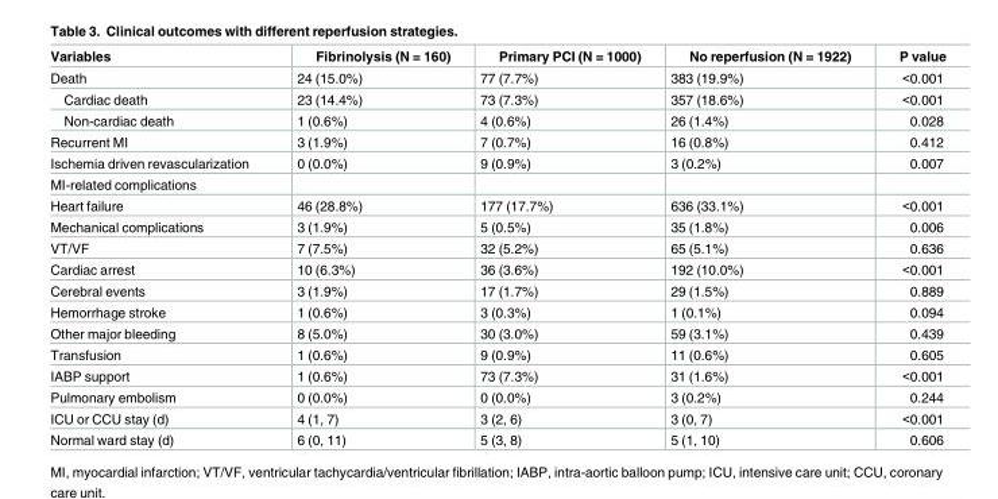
<table><thead><tr><td>Variables</td><td>Fibrinolysis (N = 160)</td><td>Primary PCI (N = 1000)</td><td>No reperfusion (N = 1922)</td><td>P value</td></tr></thead><tbody><tr><td>Death</td><td>24 (15.0%)</td><td>77 (7.7%)</td><td>383 (19.9%)</td><td>&lt;0.001</td></tr><tr><td>Cardiac death</td><td>23 (14.4%)</td><td>73 (7.3%)</td><td>357 (18.6%)</td><td>&lt;0.001</td></tr><tr><td>Non-cardiac death</td><td>1 (0.6%)</td><td>4 (0.6%)</td><td>26 (1.4%)</td><td>0.028</td></tr><tr><td>Recurrent MI</td><td>3 (1.9%)</td><td>7 (0.7%)</td><td>16 (0.8%)</td><td>0.412</td></tr><tr><td>Ischemia driven revascularization</td><td>0 (0.0%)</td><td>9 (0.9%)</td><td>3 (0.2%)</td><td>0.007</td></tr><tr><td colspan="5">MI-related complications</td></tr><tr><td>Heart failure</td><td>46 (28.8%)</td><td>177 (17.7%)</td><td>636 (33.1%)</td><td>&lt;0.001</td></tr><tr><td>Mechanical complications</td><td>3 (1.9%)</td><td>5 (0.5%)</td><td>35 (1.8%)</td><td>0.006</td></tr><tr><td>VT/VF</td><td>7 (7.5%)</td><td>32 (5.2%)</td><td>65 (5.1%)</td><td>0.636</td></tr><tr><td>Cardiac arrest</td><td>10 (6.3%)</td><td>36 (3.6%)</td><td>192 (10.0%)</td><td>&lt;0.001</td></tr><tr><td>Cerebral events</td><td>3 (1.9%)</td><td>17 (1.7%)</td><td>29 (1.5%)</td><td>0.889</td></tr><tr><td>Hemorrhage stroke</td><td>1 (0.6%)</td><td>3 (0.3%)</td><td>1 (0.1%)</td><td>0.094</td></tr><tr><td>Other major bleeding</td><td>8 (5.0%)</td><td>30 (3.0%)</td><td>59 (3.1%)</td><td>0.439</td></tr><tr><td>Transfusion</td><td>1 (0.6%)</td><td>9 (0.9%)</td><td>11 (0.6%)</td><td>0.605</td></tr><tr><td>IABP support</td><td>1 (0.6%)</td><td>73 (7.3%)</td><td>31 (1.6%)</td><td>&lt;0.001</td></tr><tr><td>Pulmonary embolism</td><td>0 (0.0%)</td><td>0 (0.0%)</td><td>3 (0.2%)</td><td>0.244</td></tr><tr><td>ICU or CCU stay (d)</td><td>4 (1, 7)</td><td>3 (2, 6)</td><td>3 (0, 7)</td><td>&lt;0.001</td></tr><tr><td>Normal ward stay (d)</td><td>6 (0, 11)</td><td>5 (3, 8)</td><td>5 (1, 10)</td><td>0.606</td></tr></tbody></table>